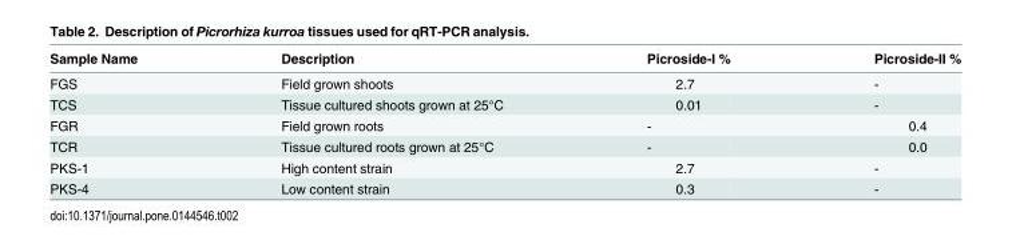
<table><thead><tr><td>Sample Name</td><td>Description</td><td>Picroside-I %</td><td>Picroside-II %</td></tr></thead><tbody><tr><td>FGS</td><td>Field grown shoots</td><td>2.7</td><td>-</td></tr><tr><td>TCS</td><td>Tissue cultured shoots grown at 25°C</td><td>0.01</td><td>-</td></tr><tr><td>FGR</td><td>Field grown roots</td><td>-</td><td>0.4</td></tr><tr><td>TCR</td><td>Tissue cultured roots grown at 25°C</td><td>-</td><td>0.0</td></tr><tr><td>PKS-1</td><td>High content strain</td><td>2.7</td><td>-</td></tr><tr><td>PKS-4</td><td>Low content strain</td><td>0.3</td><td>-</td></tr></tbody></table>